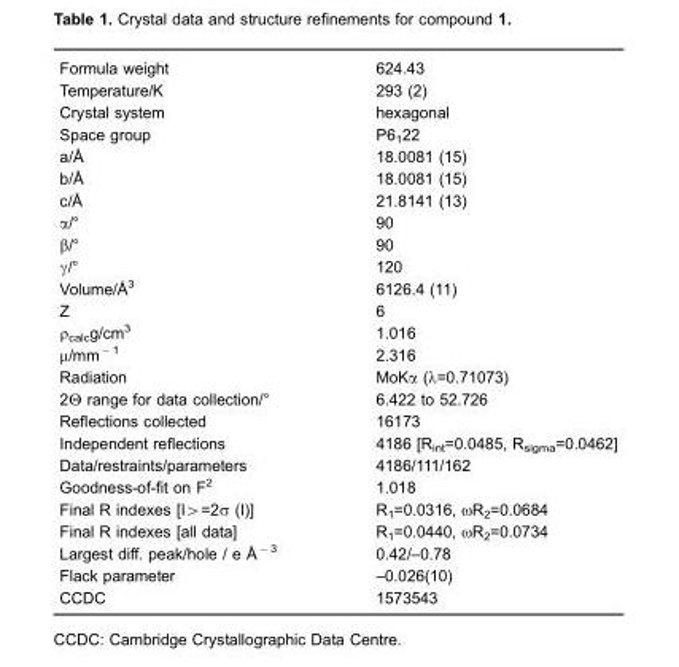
<table><tbody><tr><td>Formula weight</td><td>624.43</td></tr><tr><td>Temperature/K</td><td>293 (2)</td></tr><tr><td>Crystal system</td><td>hexagonal</td></tr><tr><td>Space group</td><td>P6<sub>1</sub>22</td></tr><tr><td>a/Å</td><td>18.0081 (15)</td></tr><tr><td>b/Å</td><td>18.0081 (15)</td></tr><tr><td>c/Å</td><td>21.8141 (13)</td></tr><tr><td>α/°</td><td>90</td></tr><tr><td>β/°</td><td>90</td></tr><tr><td>γ/°</td><td>120</td></tr><tr><td>Volume/Å<sup>3</sup></td><td>6126.4 (11)</td></tr><tr><td>Z</td><td>6</td></tr><tr><td>ρ<sub>calc</sub>g/cm<sup>3</sup></td><td>1.016</td></tr><tr><td>μ/mm <sup>− 1</sup></td><td>2.316</td></tr><tr><td>Radiation</td><td>MoKα (λ=0.71073)</td></tr><tr><td>2Θ range for data collection/°</td><td>6.422 to 52.726</td></tr><tr><td>Reflections collected</td><td>16173</td></tr><tr><td>Independent reflections</td><td>4186 [R<sub>int</sub>=0.0485, R<sub>sigma</sub>=0.0462]</td></tr><tr><td>Data/restraints/parameters</td><td>4186/111/162</td></tr><tr><td>Goodness-of-fit on F<sup>2</sup></td><td>1.018</td></tr><tr><td>Final R indexes [I&gt;=2σ (I)]</td><td>R<sub>1</sub>=0.0316, ωR<sub>2</sub>=0.0684</td></tr><tr><td>Final R indexes [all data]</td><td>R<sub>1</sub>=0.0440, ωR<sub>2</sub>=0.0734</td></tr><tr><td>Largest diff. peak/hole / e Å <sup>− 3</sup></td><td>0.42/–0.78</td></tr><tr><td>Flack parameter</td><td>–0.026(10)</td></tr><tr><td>CCDC</td><td>1573543</td></tr></tbody></table>